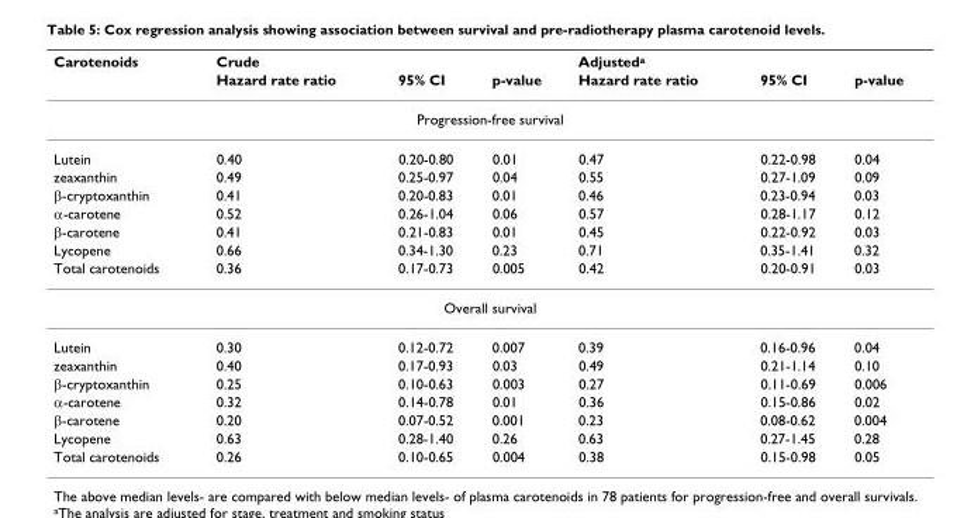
<table><thead><tr><td rowspan="2">Carotenoids</td><td colspan="3">Crude</td><td colspan="3">Adjusted<sup>a</sup></td></tr><tr><td>Hazard rate ratio</td><td>95% CI</td><td>p-value</td><td>Hazard rate ratio</td><td>95% CI</td><td>p-value</td></tr></thead><tbody><tr><td colspan="7">Progression-free survival</td></tr><tr><td>Lutein</td><td>0.40</td><td>0.20-0.80</td><td>0.01</td><td>0.47</td><td>0.22-0.98</td><td>0.04</td></tr><tr><td>zeaxanthin</td><td>0.49</td><td>0.25-0.97</td><td>0.04</td><td>0.55</td><td>0.27-1.09</td><td>0.09</td></tr><tr><td>β-cryptoxanthin</td><td>0.41</td><td>0.20-0.83</td><td>0.01</td><td>0.46</td><td>0.23-0.94</td><td>0.03</td></tr><tr><td>α-carotene</td><td>0.52</td><td>0.26-1.04</td><td>0.06</td><td>0.57</td><td>0.28-1.17</td><td>0.12</td></tr><tr><td>β-carotene</td><td>0.41</td><td>0.21-0.83</td><td>0.01</td><td>0.45</td><td>0.22-0.92</td><td>0.03</td></tr><tr><td>Lycopene</td><td>0.66</td><td>0.34-1.30</td><td>0.23</td><td>0.71</td><td>0.35-1.41</td><td>0.32</td></tr><tr><td>Total carotenoids</td><td>0.36</td><td>0.17-0.73</td><td>0.005</td><td>0.42</td><td>0.20-0.91</td><td>0.03</td></tr><tr><td colspan="7">Overall survival</td></tr><tr><td>Lutein</td><td>0.30</td><td>0.12-0.72</td><td>0.007</td><td>0.39</td><td>0.16-0.96</td><td>0.04</td></tr><tr><td>zeaxanthin</td><td>0.40</td><td>0.17-0.93</td><td>0.03</td><td>0.49</td><td>0.21-1.14</td><td>0.10</td></tr><tr><td>β-cryptoxanthin</td><td>0.25</td><td>0.10-0.63</td><td>0.003</td><td>0.27</td><td>0.11-0.69</td><td>0.006</td></tr><tr><td>α-carotene</td><td>0.32</td><td>0.14-0.78</td><td>0.01</td><td>0.36</td><td>0.15-0.86</td><td>0.02</td></tr><tr><td>β-carotene</td><td>0.20</td><td>0.07-0.52</td><td>0.001</td><td>0.23</td><td>0.08-0.62</td><td>0.004</td></tr><tr><td>Lycopene</td><td>0.63</td><td>0.28-1.40</td><td>0.26</td><td>0.63</td><td>0.27-1.45</td><td>0.28</td></tr><tr><td>Total carotenoids</td><td>0.26</td><td>0.10-0.65</td><td>0.004</td><td>0.38</td><td>0.15-0.98</td><td>0.05</td></tr></tbody></table>